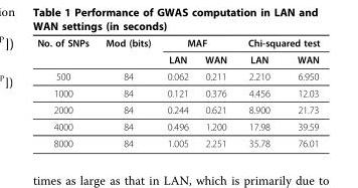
<table><thead><tr><td rowspan="2">No. of SNPs</td><td rowspan="2">Mod (bits)</td><td colspan="2">MAF</td><td colspan="2">Chi-squared test</td></tr><tr><td>LAN</td><td>WAN</td><td>LAN</td><td>WAN</td></tr></thead><tbody><tr><td>500</td><td>84</td><td>0.062</td><td>0.211</td><td>2.210</td><td>6.950</td></tr><tr><td>1000</td><td>84</td><td>0.121</td><td>0.376</td><td>4.456</td><td>12.03</td></tr><tr><td>2000</td><td>84</td><td>0.244</td><td>0.621</td><td>8.900</td><td>21.73</td></tr><tr><td>4000</td><td>84</td><td>0.496</td><td>1.200</td><td>17.98</td><td>39.59</td></tr><tr><td>8000</td><td>84</td><td>1.005</td><td>2.251</td><td>35.78</td><td>76.01</td></tr></tbody></table>